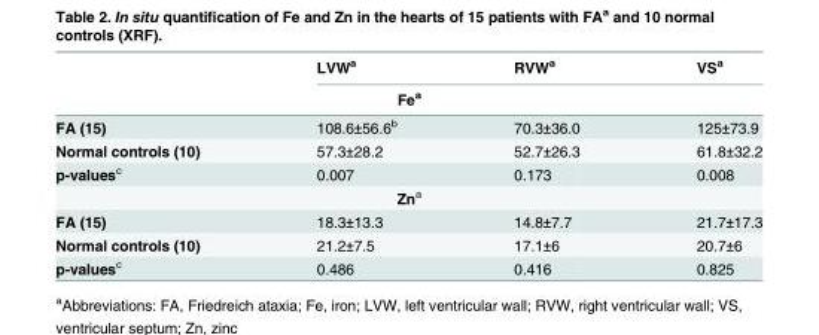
<table><thead><tr><td></td><td>LVW<sup>a</sup></td><td>RVW<sup>a</sup></td><td>VS<sup>a</sup></td></tr><tr><td colspan="4">Fe<sup>a</sup></td></tr></thead><tbody><tr><td>FA (15)</td><td>108.6±56.6<sup>b</sup></td><td>70.3±36.0</td><td>125±73.9</td></tr><tr><td>Normal controls (10)</td><td>57.3±28.2</td><td>52.7±26.3</td><td>61.8±32.2</td></tr><tr><td>p-values<sup>c</sup></td><td>0.007</td><td>0.173</td><td>0.008</td></tr><tr><td colspan="4">Zn<sup>a</sup></td></tr><tr><td>FA (15)</td><td>18.3±13.3</td><td>14.8±7.7</td><td>21.7±17.3</td></tr><tr><td>Normal controls (10)</td><td>21.2±7.5</td><td>17.1±6</td><td>20.7±6</td></tr><tr><td>p-values<sup>c</sup></td><td>0.486</td><td>0.416</td><td>0.825</td></tr></tbody></table>